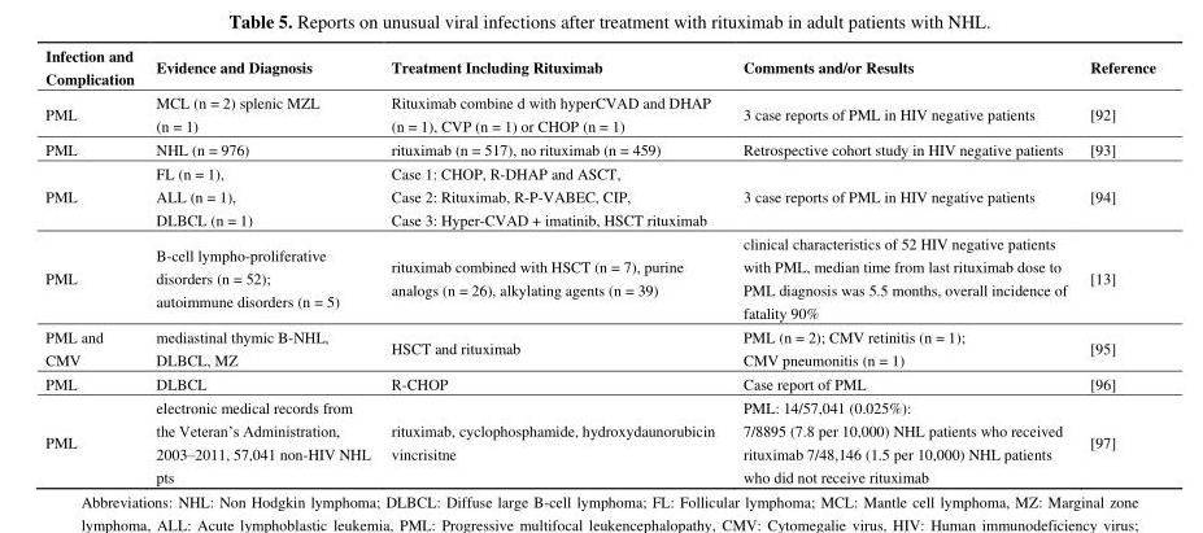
<table><thead><tr><td>Infection and Complication</td><td>Evidence and Diagnosis</td><td>Treatment Including Rituximab</td><td>Comments and/or Results</td><td>Reference</td></tr></thead><tbody><tr><td>PML</td><td>MCL (n = 2) splenic MZL (n = 1)</td><td>Rituximab combine d with hyperCVAD and DHAP (n = 1), CVP (n = 1) or CHOP (n = 1)</td><td>3 case reports of PML in HIV negative patients</td><td>[92]</td></tr><tr><td>PML</td><td>NHL (n = 976)</td><td>rituximab (n = 517), no rituximab (n = 459)</td><td>Retrospective cohort study in HIV negative patients</td><td>[93]</td></tr><tr><td>PML</td><td>FL (n = 1), ALL (n = 1), DLBCL (n = 1)</td><td>Case 1: CHOP, R-DHAP and ASCT, Case 2: Rituximab, R-P-VABEC, CIP, Case 3: Hyper-CVAD + imatinib, HSCT rituximab</td><td>3 case reports of PML in HIV negative patients</td><td>[94]</td></tr><tr><td>PML</td><td>B-cell lympho-proliferative disorders (n = 52); autoimmune disorders (n = 5)</td><td>rituximab combined with HSCT (n = 7), purine analogs (n = 26), alkylating agents (n = 39)</td><td>clinical characteristics of 52 HIV negative patients with PML, median time from last rituximab dose to PML diagnosis was 5.5 months, overall incidence of fatality 90%</td><td>[13]</td></tr><tr><td>PML and CMV</td><td>mediastinal thymic B-NHL, DLBCL, MZ</td><td>HSCT and rituximab</td><td>PML (n = 2); CMV retinitis (n = 1); CMV pneumonitis (n = 1)</td><td>[95]</td></tr><tr><td>PML</td><td>DLBCL</td><td>R-CHOP</td><td>Case report of PML</td><td>[96]</td></tr><tr><td>PML</td><td>electronic medical records from the Veteran’s Administration, 2003–2011, 57,041 non-HIV NHL pts</td><td>rituximab, cyclophosphamide, hydroxydaunorubicin vincrisitne</td><td>PML: 14/57,041 (0.025%): 7/8895 (7.8 per 10,000) NHL patients who received rituximab 7/48,146 (1.5 per 10,000) NHL patients who did not receive rituximab</td><td>[97]</td></tr></tbody></table>